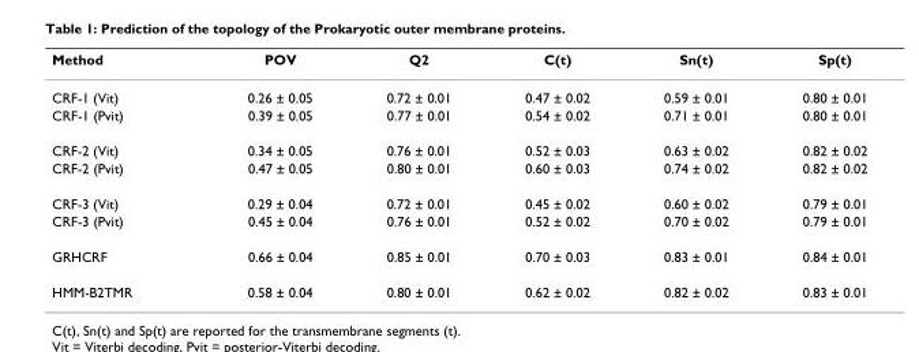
<table><thead><tr><td>Method</td><td>POV</td><td>Q2</td><td>C(t)</td><td>Sn(t)</td><td>Sp(t)</td></tr></thead><tbody><tr><td>CRF-1 (Vit)</td><td>0.26 ± 0.05</td><td>0.72 ± 0.01</td><td>0.47 ± 0.02</td><td>0.59 ± 0.01</td><td>0.80 ± 0.01</td></tr><tr><td>CRF-1 (Pvit)</td><td>0.39 ± 0.05</td><td>0.77 ± 0.01</td><td>0.54 ± 0.02</td><td>0.71 ± 0.01</td><td>0.80 ± 0.01</td></tr><tr><td>CRF-2 (Vit)</td><td>0.34 ± 0.05</td><td>0.76 ± 0.01</td><td>0.52 ± 0.03</td><td>0.63 ± 0.02</td><td>0.82 ± 0.02</td></tr><tr><td>CRF-2 (Pvit)</td><td>0.47 ± 0.05</td><td>0.80 ± 0.01</td><td>0.60 ± 0.03</td><td>0.74 ± 0.02</td><td>0.82 ± 0.02</td></tr><tr><td>CRF-3 (Vit)</td><td>0.29 ± 0.04</td><td>0.72 ± 0.01</td><td>0.45 ± 0.02</td><td>0.60 ± 0.02</td><td>0.79 ± 0.01</td></tr><tr><td>CRF-3 (Pvit)</td><td>0.45 ± 0.04</td><td>0.76 ± 0.01</td><td>0.52 ± 0.02</td><td>0.70 ± 0.02</td><td>0.79 ± 0.01</td></tr><tr><td>GRHCRF</td><td>0.66 ± 0.04</td><td>0.85 ± 0.01</td><td>0.70 ± 0.03</td><td>0.83 ± 0.01</td><td>0.84 ± 0.01</td></tr><tr><td>HMM-B2TMR</td><td>0.58 ± 0.04</td><td>0.80 ± 0.01</td><td>0.62 ± 0.02</td><td>0.82 ± 0.02</td><td>0.83 ± 0.01</td></tr></tbody></table>